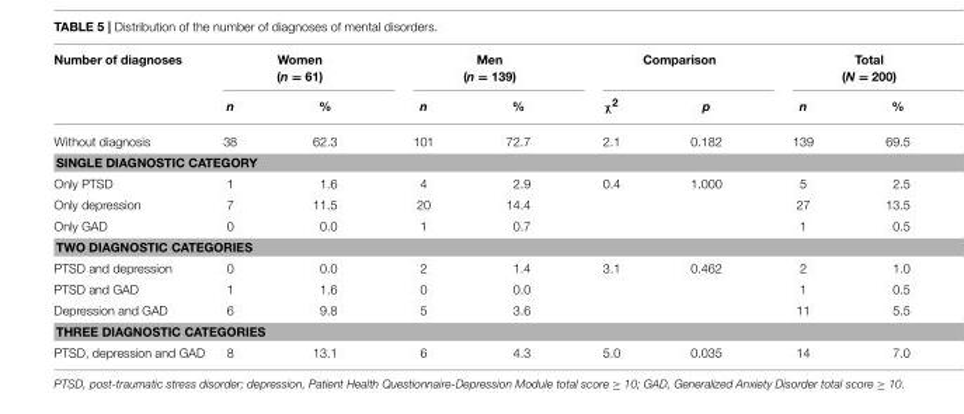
<table><thead><tr><td rowspan="2">Number of diagnoses</td><td colspan="2">Women (n = 61)</td><td colspan="2">Men (n = 139)</td><td colspan="2">Comparison</td><td colspan="2">Total (N = 200)</td></tr><tr><td>n</td><td>%</td><td>n</td><td>%</td><td>χ<sup>2</sup></td><td>p</td><td>n</td><td>%</td></tr></thead><tbody><tr><td>Without diagnosis</td><td>38</td><td>62.3</td><td>101</td><td>72.7</td><td>2.1</td><td>0.182</td><td>139</td><td>69.5</td></tr><tr><td colspan="9">SINGLE DIAGNOSTIC CATEGORY</td></tr><tr><td>Only PTSD</td><td>1</td><td>1.6</td><td>4</td><td>2.9</td><td>0.4</td><td>1.000</td><td>5</td><td>2.5</td></tr><tr><td>Only depression</td><td>7</td><td>11.5</td><td>20</td><td>14.4</td><td></td><td></td><td>27</td><td>13.5</td></tr><tr><td>Only GAD</td><td>0</td><td>0.0</td><td>1</td><td>0.7</td><td></td><td></td><td>1</td><td>0.5</td></tr><tr><td colspan="9">TWO DIAGNOSTIC CATEGORIES</td></tr><tr><td>PTSD and depression</td><td>0</td><td>0.0</td><td>2</td><td>1.4</td><td>3.1</td><td>0.462</td><td>2</td><td>1.0</td></tr><tr><td>PTSD and GAD</td><td>1</td><td>1.6</td><td>0</td><td>0.0</td><td></td><td></td><td>1</td><td>0.5</td></tr><tr><td>Depression and GAD</td><td>6</td><td>9.8</td><td>5</td><td>3.6</td><td></td><td></td><td>11</td><td>5.5</td></tr><tr><td colspan="9">THREE DIAGNOSTIC CATEGORIES</td></tr><tr><td>PTSD, depression and GAD</td><td>8</td><td>13.1</td><td>6</td><td>4.3</td><td>5.0</td><td>0.035</td><td>14</td><td>7.0</td></tr></tbody></table>